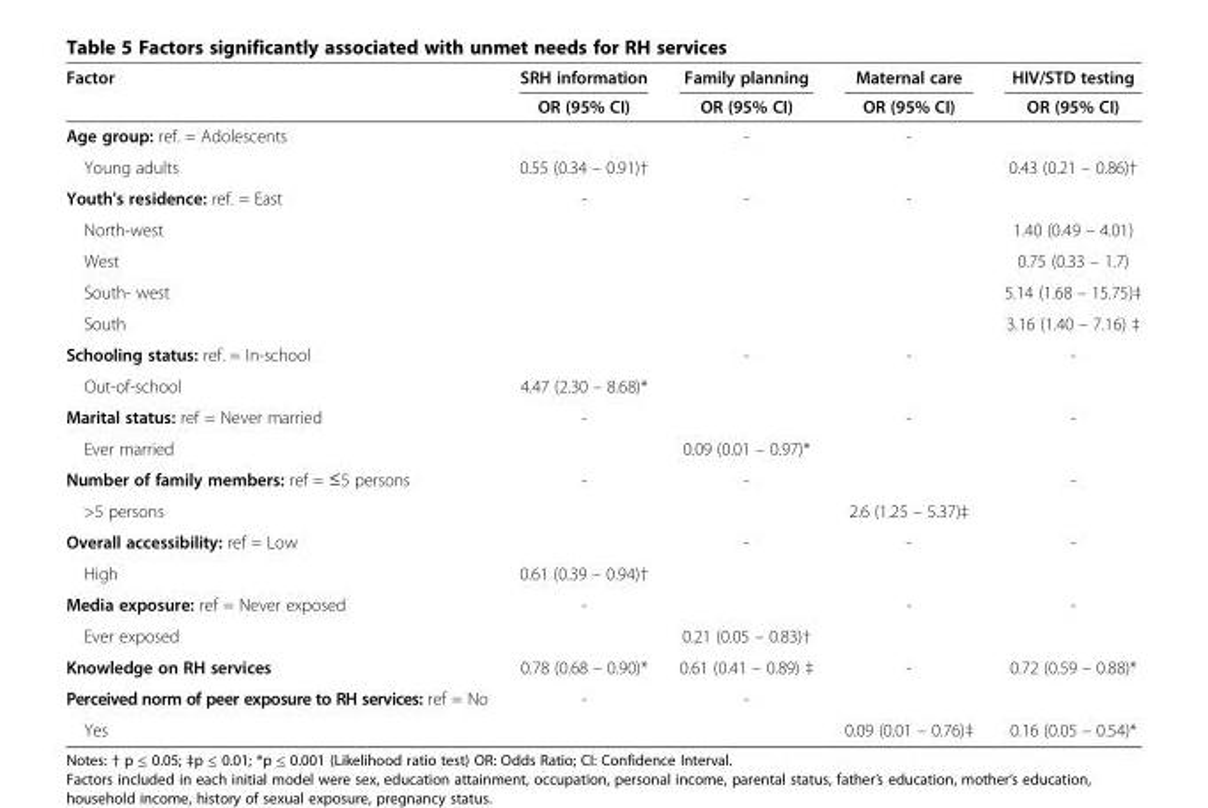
<table><thead><tr><td rowspan="2">Factor</td><td rowspan="2">SRH information OR (95% CI)</td><td rowspan="2">Family planning OR (95% CI)</td><td rowspan="2">Maternal care OR (95% CI)</td><td rowspan="2">HIV/STD testing OR (95% CI)</td></tr><tr></tr></thead><tbody><tr><td>Age group: ref. = Adolescents</td><td></td><td>-</td><td>-</td><td></td></tr><tr><td>Young adults</td><td>0.55 (0.34 – 0.91)†</td><td></td><td></td><td>0.43 (0.21 – 0.86)†</td></tr><tr><td>Youth&#x27;s residence: ref. = East</td><td>-</td><td>-</td><td>-</td><td></td></tr><tr><td>North-west</td><td></td><td></td><td></td><td>1.40 (0.49 – 4.01)</td></tr><tr><td>West</td><td></td><td></td><td></td><td>0.75 (0.33 – 1.7)</td></tr><tr><td>South- west</td><td></td><td></td><td></td><td>5.14 (1.68 – 15.75)‡</td></tr><tr><td>South</td><td></td><td></td><td></td><td>3.16 (1.40 – 7.16) ‡</td></tr><tr><td>Schooling status: ref. = In-school</td><td></td><td>-</td><td>-</td><td>-</td></tr><tr><td>Out-of-school</td><td>4.47 (2.30 – 8.68)*</td><td></td><td></td><td></td></tr><tr><td>Marital status: ref = Never married</td><td>-</td><td></td><td>-</td><td>-</td></tr><tr><td>Ever married</td><td></td><td>0.09 (0.01 – 0.97)*</td><td></td><td></td></tr><tr><td>Number of family members: ref = ≤5 persons</td><td>-</td><td>-</td><td></td><td>-</td></tr><tr><td>&gt;5 persons</td><td></td><td></td><td>2.6 (1.25 – 5.37)‡</td><td></td></tr><tr><td>Overall accessibility: ref = Low</td><td></td><td>-</td><td>-</td><td>-</td></tr><tr><td>High</td><td>0.61 (0.39 – 0.94)†</td><td></td><td></td><td></td></tr><tr><td>Media exposure: ref = Never exposed</td><td>-</td><td></td><td>-</td><td>-</td></tr><tr><td>Ever exposed</td><td></td><td>0.21 (0.05 – 0.83)†</td><td></td><td></td></tr><tr><td>Knowledge on RH services</td><td>0.78 (0.68 – 0.90)*</td><td>0.61 (0.41 – 0.89) ‡</td><td>-</td><td>0.72 (0.59 – 0.88)*</td></tr><tr><td>Perceived norm of peer exposure to RH services: ref = No</td><td>-</td><td>-</td><td></td><td></td></tr><tr><td>Yes</td><td></td><td></td><td>0.09 (0.01 – 0.76)‡</td><td>0.16 (0.05 – 0.54)*</td></tr></tbody></table>